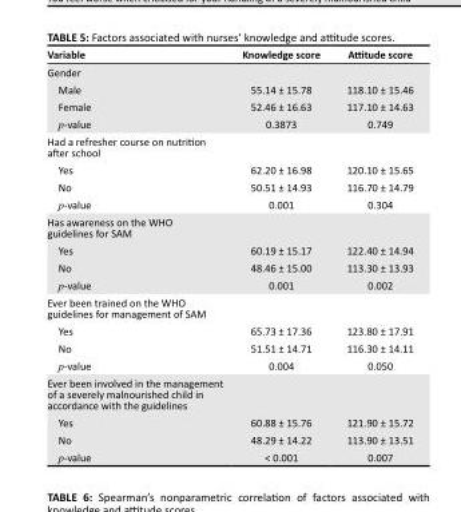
<table><thead><tr><td>Variable</td><td>Knowledge score</td><td>Attitude score</td></tr></thead><tbody><tr><td colspan="3">Gender</td></tr><tr><td>Male</td><td>55.14 ± 15.78</td><td>118.10 ± 15.46</td></tr><tr><td>Female</td><td>52.46 ± 16.63</td><td>117.10 ± 14.63</td></tr><tr><td>p-value</td><td>0.3873</td><td>0.749</td></tr><tr><td colspan="3">Had a refresher course on nutrition after school</td></tr><tr><td>Yes</td><td>62.20 ± 16.98</td><td>120.10 ± 15.65</td></tr><tr><td>No</td><td>50.51 ± 14.93</td><td>116.70 ± 14.79</td></tr><tr><td>p-value</td><td>0.001</td><td>0.304</td></tr><tr><td colspan="3">Has awareness on the WHO guidelines for SAM</td></tr><tr><td>Yes</td><td>60.19 ± 15.17</td><td>122.40 ± 14.94</td></tr><tr><td>No</td><td>48.46 ± 15.00</td><td>113.30 ± 13.93</td></tr><tr><td>p-value</td><td>0.001</td><td>0.002</td></tr><tr><td colspan="3">Ever been trained on the WHO guidelines for management of SAM</td></tr><tr><td>Yes</td><td>65.73 ± 17.36</td><td>123.80 ± 17.91</td></tr><tr><td>No</td><td>51.51 ± 14.71</td><td>116.30 ± 14.11</td></tr><tr><td>p-value</td><td>0.004</td><td>0.050</td></tr><tr><td colspan="3">Ever been involved in the management of a severely malnourished child in accordance with the guidelines</td></tr><tr><td>Yes</td><td>60.88 ± 15.76</td><td>121.90 ± 15.72</td></tr><tr><td>No</td><td>48.29 ± 14.22</td><td>113.90 ± 13.51</td></tr><tr><td>p-value</td><td>&lt; 0.001</td><td>0.007</td></tr></tbody></table>